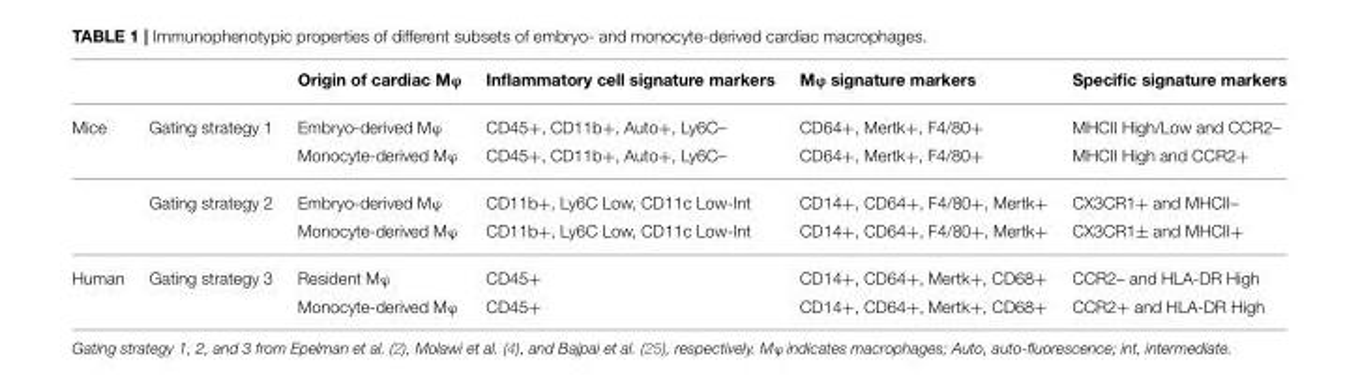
<table><thead><tr><td></td><td></td><td>Origin of cardiac Mϕ</td><td>Inflammatory cell signature markers</td><td>Mϕ signature markers</td><td>Specific signature markers</td></tr></thead><tbody><tr><td rowspan="4">Mice</td><td>Gating strategy 1</td><td>Embryo-derived Mϕ</td><td>CD45+, CD11b+, Auto+, Ly6C–</td><td>CD64+, Mertk+, F4/80+</td><td>MHCII High/Low and CCR2–</td></tr><tr><td></td><td>Monocyte-derived Mϕ</td><td>CD45+, CD11b+, Auto+, Ly6C–</td><td>CD64+, Mertk+, F4/80+</td><td>MHCII High and CCR2+</td></tr><tr><td>Gating strategy 2</td><td>Embryo-derived Mϕ</td><td>CD11b+, Ly6C Low, CD11c Low-Int</td><td>CD14+, CD64+, F4/80+, Mertk+</td><td>CX3CR1+ and MHCII–</td></tr><tr><td></td><td>Monocyte-derived Mϕ</td><td>CD11b+, Ly6C Low, CD11c Low-Int</td><td>CD14+, CD64+, F4/80+, Mertk+</td><td>CX3CR1± and MHCII+</td></tr><tr><td rowspan="2">Human</td><td>Gating strategy 3</td><td>Resident Mϕ</td><td>CD45+</td><td>CD14+, CD64+, Mertk+, CD68+</td><td>CCR2– and HLA-DR High</td></tr><tr><td></td><td>Monocyte-derived Mϕ</td><td>CD45+</td><td>CD14+, CD64+, Mertk+, CD68+</td><td>CCR2+ and HLA-DR High</td></tr></tbody></table>